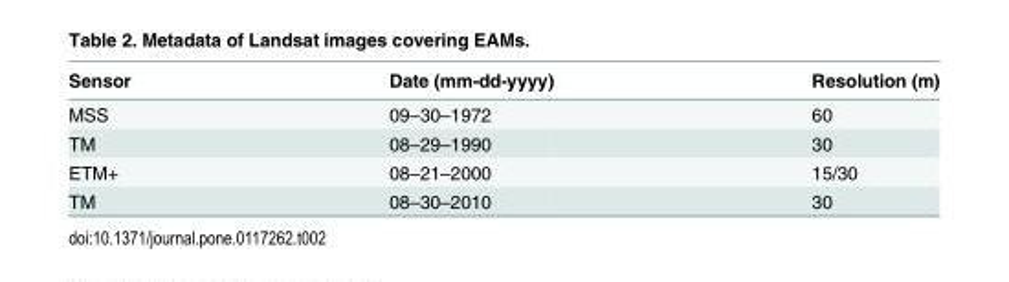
<table><thead><tr><td>Sensor</td><td>Date (mm-dd-yyyy)</td><td>Resolution (m)</td></tr></thead><tbody><tr><td>MSS</td><td>09–30–1972</td><td>60</td></tr><tr><td>TM</td><td>08–29–1990</td><td>30</td></tr><tr><td>ETM+</td><td>08–21–2000</td><td>15/30</td></tr><tr><td>TM</td><td>08–30–2010</td><td>30</td></tr></tbody></table>